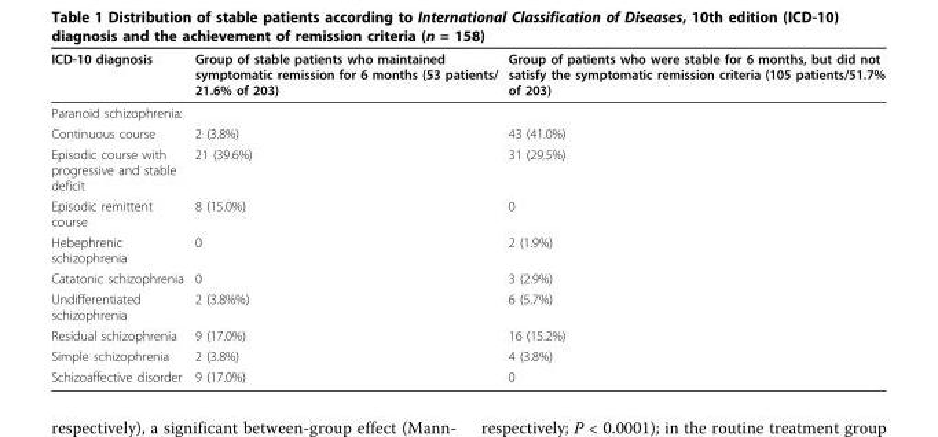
<table><thead><tr><td>ICD-10 diagnosis</td><td>Group of stable patients who maintained symptomatic remission for 6 months (53 patients/ 21.6% of 203)</td><td>Group of patients who were stable for 6 months, but did not satisfy the symptomatic remission criteria (105 patients/51.7% of 203)</td></tr></thead><tbody><tr><td colspan="3">Paranoid schizophrenia:</td></tr><tr><td>Continuous course</td><td>2 (3.8%)</td><td>43 (41.0%)</td></tr><tr><td>Episodic course with progressive and stable deficit</td><td>21 (39.6%)</td><td>31 (29.5%)</td></tr><tr><td>Episodic remittent course</td><td>8 (15.0%)</td><td>0</td></tr><tr><td>Hebephrenic schizophrenia</td><td>0</td><td>2 (1.9%)</td></tr><tr><td>Catatonic schizophrenia</td><td>0</td><td>3 (2.9%)</td></tr><tr><td>Undifferentiated schizophrenia</td><td>2 (3.8%%)</td><td>6 (5.7%)</td></tr><tr><td>Residual schizophrenia</td><td>9 (17.0%)</td><td>16 (15.2%)</td></tr><tr><td>Simple schizophrenia</td><td>2 (3.8%)</td><td>4 (3.8%)</td></tr><tr><td>Schizoaffective disorder</td><td>9 (17.0%)</td><td>0</td></tr></tbody></table>